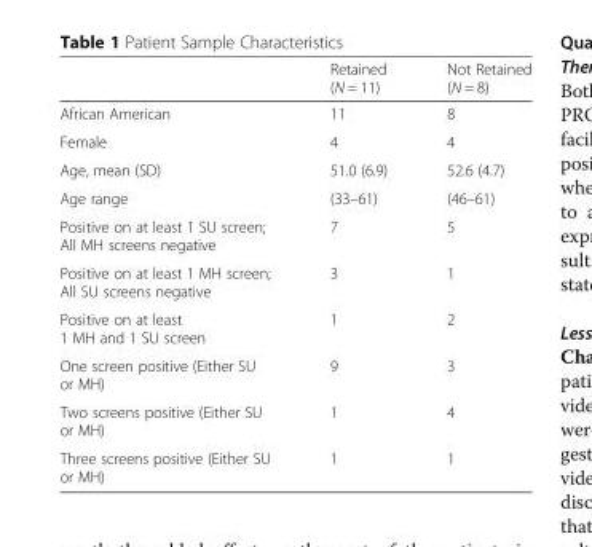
<table><thead><tr><td></td><td>Retained (N = 11)</td><td>Not Retained (N = 8)</td></tr></thead><tbody><tr><td>African American</td><td>11</td><td>8</td></tr><tr><td>Female</td><td>4</td><td>4</td></tr><tr><td>Age, mean (SD)</td><td>51.0 (6.9)</td><td>52.6 (4.7)</td></tr><tr><td>Age range</td><td>(33–61)</td><td>(46–61)</td></tr><tr><td>Positive on at least 1 SU screen; All MH screens negative</td><td>7</td><td>5</td></tr><tr><td>Positive on at least 1 MH screen; All SU screens negative</td><td>3</td><td>1</td></tr><tr><td>Positive on at least 1 MH and 1 SU screen</td><td>1</td><td>2</td></tr><tr><td>One screen positive (Either SU or MH)</td><td>9</td><td>3</td></tr><tr><td>Two screens positive (Either SU or MH)</td><td>1</td><td>4</td></tr><tr><td>Three screens positive (Either SU or MH)</td><td>1</td><td>1</td></tr></tbody></table>